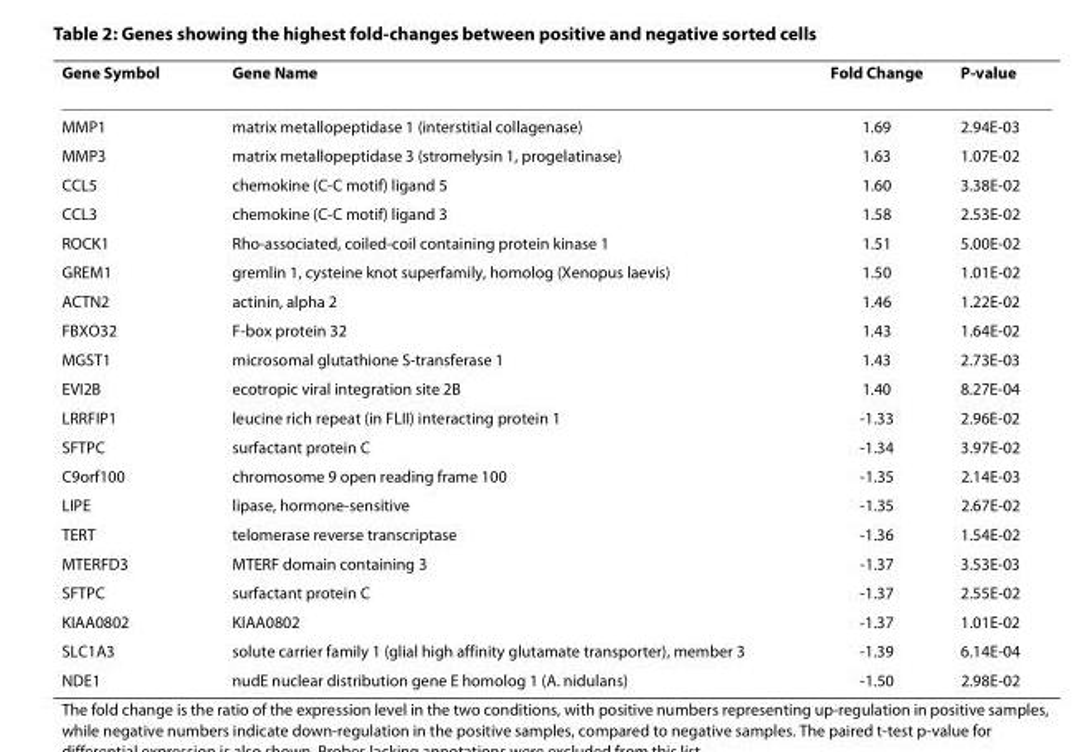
<table><thead><tr><td>Gene Symbol</td><td>Gene Name</td><td>Fold Change</td><td>P-value</td></tr></thead><tbody><tr><td>MMP1</td><td>matrix metallopeptidase 1 (interstitial collagenase)</td><td>1.69</td><td>2.94E-03</td></tr><tr><td>MMP3</td><td>matrix metallopeptidase 3 (stromelysin 1, progelatinase)</td><td>1.63</td><td>1.07E-02</td></tr><tr><td>CCL5</td><td>chemokine (C-C motif) ligand 5</td><td>1.60</td><td>3.38E-02</td></tr><tr><td>CCL3</td><td>chemokine (C-C motif) ligand 3</td><td>1.58</td><td>2.53E-02</td></tr><tr><td>ROCK1</td><td>Rho-associated, coiled-coil containing protein kinase 1</td><td>1.51</td><td>5.00E-02</td></tr><tr><td>GREM1</td><td>gremlin 1, cysteine knot superfamily, homolog (Xenopus laevis)</td><td>1.50</td><td>1.01E-02</td></tr><tr><td>ACTN2</td><td>actinin, alpha 2</td><td>1.46</td><td>1.22E-02</td></tr><tr><td>FBXO32</td><td>F-box protein 32</td><td>1.43</td><td>1.64E-02</td></tr><tr><td>MGST1</td><td>microsomal glutathione S-transferase 1</td><td>1.43</td><td>2.73E-03</td></tr><tr><td>EVI2B</td><td>ecotropic viral integration site 2B</td><td>1.40</td><td>8.27E-04</td></tr><tr><td>LRRFIP1</td><td>leucine rich repeat (in FLII) interacting protein 1</td><td>-1.33</td><td>2.96E-02</td></tr><tr><td>SFTPC</td><td>surfactant protein C</td><td>-1.34</td><td>3.97E-02</td></tr><tr><td>C9orf100</td><td>chromosome 9 open reading frame 100</td><td>-1.35</td><td>2.14E-03</td></tr><tr><td>LIPE</td><td>lipase, hormone-sensitive</td><td>-1.35</td><td>2.67E-02</td></tr><tr><td>TERT</td><td>telomerase reverse transcriptase</td><td>-1.36</td><td>1.54E-02</td></tr><tr><td>MTERFD3</td><td>MTERF domain containing 3</td><td>-1.37</td><td>3.53E-03</td></tr><tr><td>SFTPC</td><td>surfactant protein C</td><td>-1.37</td><td>2.55E-02</td></tr><tr><td>KIAA0802</td><td>KIAA0802</td><td>-1.37</td><td>1.01E-02</td></tr><tr><td>SLC1A3</td><td>solute carrier family 1 (glial high affinity glutamate transporter), member 3</td><td>-1.39</td><td>6.14E-04</td></tr><tr><td>NDE1</td><td>nudE nuclear distribution gene E homolog 1 (A. nidulans)</td><td>-1.50</td><td>2.98E-02</td></tr></tbody></table>